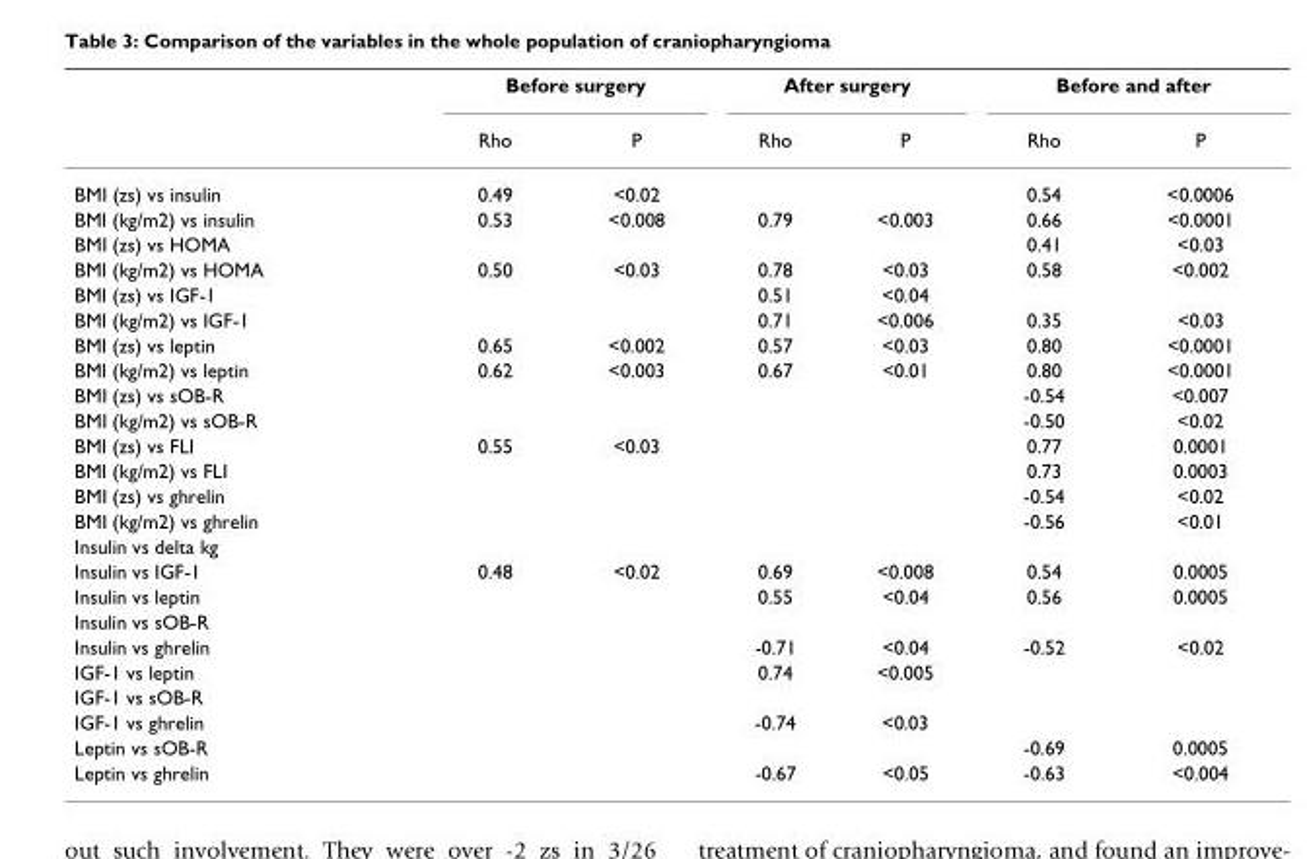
<table><thead><tr><td rowspan="2"></td><td colspan="2">Before surgery</td><td colspan="2">After surgery</td><td colspan="2">Before and after</td></tr><tr><td>Rho</td><td>P</td><td>Rho</td><td>P</td><td>Rho</td><td>P</td></tr></thead><tbody><tr><td>BMI (zs) vs insulin</td><td>0.49</td><td>&lt;0.02</td><td></td><td></td><td>0.54</td><td>&lt;0.0006</td></tr><tr><td>BMI (kg/m2) vs insulin</td><td>0.53</td><td>&lt;0.008</td><td>0.79</td><td>&lt;0.003</td><td>0.66</td><td>&lt;0.0001</td></tr><tr><td>BMI (zs) vs HOMA</td><td></td><td></td><td></td><td></td><td>0.41</td><td>&lt;0.03</td></tr><tr><td>BMI (kg/m2) vs HOMA</td><td>0.50</td><td>&lt;0.03</td><td>0.78</td><td>&lt;0.03</td><td>0.58</td><td>&lt;0.002</td></tr><tr><td>BMI (zs) vs IGF-1</td><td></td><td></td><td>0.51</td><td>&lt;0.04</td><td></td><td></td></tr><tr><td>BMI (kg/m2) vs IGF-1</td><td></td><td></td><td>0.71</td><td>&lt;0.006</td><td>0.35</td><td>&lt;0.03</td></tr><tr><td>BMI (zs) vs leptin</td><td>0.65</td><td>&lt;0.002</td><td>0.57</td><td>&lt;0.03</td><td>0.80</td><td>&lt;0.0001</td></tr><tr><td>BMI (kg/m2) vs leptin</td><td>0.62</td><td>&lt;0.003</td><td>0.67</td><td>&lt;0.01</td><td>0.80</td><td>&lt;0.0001</td></tr><tr><td>BMI (zs) vs sOB-R</td><td></td><td></td><td></td><td></td><td>-0.54</td><td>&lt;0.007</td></tr><tr><td>BMI (kg/m2) vs sOB-R</td><td></td><td></td><td></td><td></td><td>-0.50</td><td>&lt;0.02</td></tr><tr><td>BMI (zs) vs FLI</td><td>0.55</td><td>&lt;0.03</td><td></td><td></td><td>0.77</td><td>0.0001</td></tr><tr><td>BMI (kg/m2) vs FLI</td><td></td><td></td><td></td><td></td><td>0.73</td><td>0.0003</td></tr><tr><td>BMI (zs) vs ghrelin</td><td></td><td></td><td></td><td></td><td>-0.54</td><td>&lt;0.02</td></tr><tr><td>BMI (kg/m2) vs ghrelin</td><td></td><td></td><td></td><td></td><td>-0.56</td><td>&lt;0.01</td></tr><tr><td colspan="7">Insulin vs delta kg</td></tr><tr><td>Insulin vs IGF-1</td><td>0.48</td><td>&lt;0.02</td><td>0.69</td><td>&lt;0.008</td><td>0.54</td><td>0.0005</td></tr><tr><td>Insulin vs leptin</td><td></td><td></td><td>0.55</td><td>&lt;0.04</td><td>0.56</td><td>0.0005</td></tr><tr><td colspan="7">Insulin vs sOB-R</td></tr><tr><td>Insulin vs ghrelin</td><td></td><td></td><td>-0.71</td><td>&lt;0.04</td><td>-0.52</td><td>&lt;0.02</td></tr><tr><td>IGF-1 vs leptin</td><td></td><td></td><td>0.74</td><td>&lt;0.005</td><td></td><td></td></tr><tr><td colspan="7">IGF-1 vs sOB-R</td></tr><tr><td>IGF-1 vs ghrelin</td><td></td><td></td><td>-0.74</td><td>&lt;0.03</td><td></td><td></td></tr><tr><td>Leptin vs sOB-R</td><td></td><td></td><td></td><td></td><td>-0.69</td><td>0.0005</td></tr><tr><td>Leptin vs ghrelin</td><td></td><td></td><td>-0.67</td><td>&lt;0.05</td><td>-0.63</td><td>&lt;0.004</td></tr></tbody></table>